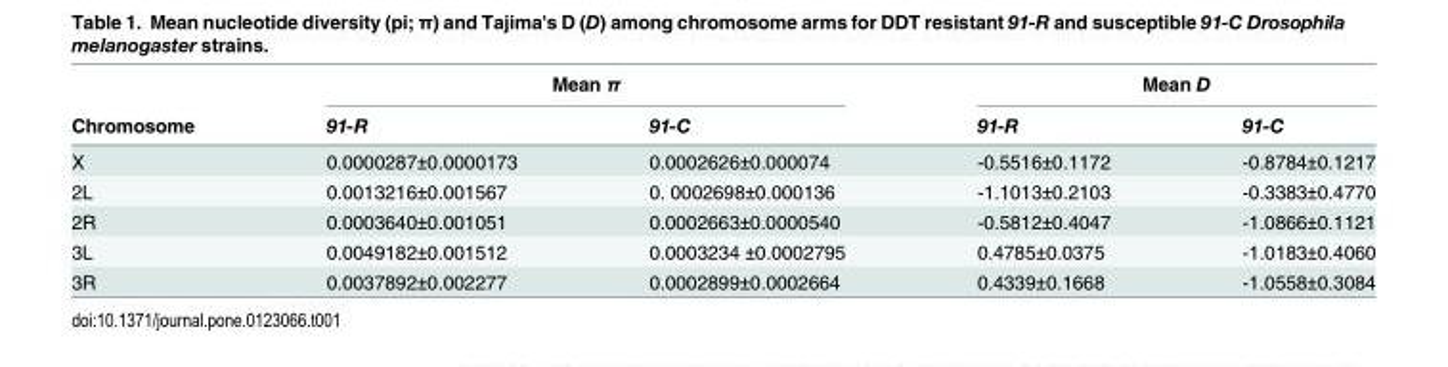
<table><thead><tr><td rowspan="2">Chromosome</td><td colspan="2">Mean π</td><td colspan="2">Mean D</td></tr><tr><td>91-R</td><td>91-C</td><td>91-R</td><td>91-C</td></tr></thead><tbody><tr><td>X</td><td>0.0000287±0.0000173</td><td>0.0002626±0.000074</td><td>-0.5516±0.1172</td><td>-0.8784±0.1217</td></tr><tr><td>2L</td><td>0.0013216±0.001567</td><td>0. 0002698±0.000136</td><td>-1.1013±0.2103</td><td>-0.3383±0.4770</td></tr><tr><td>2R</td><td>0.0003640±0.001051</td><td>0.0002663±0.0000540</td><td>-0.5812±0.4047</td><td>-1.0866±0.1121</td></tr><tr><td>3L</td><td>0.0049182±0.001512</td><td>0.0003234 ±0.0002795</td><td>0.4785±0.0375</td><td>-1.0183±0.4060</td></tr><tr><td>3R</td><td>0.0037892±0.002277</td><td>0.0002899±0.0002664</td><td>0.4339±0.1668</td><td>-1.0558±0.3084</td></tr></tbody></table>